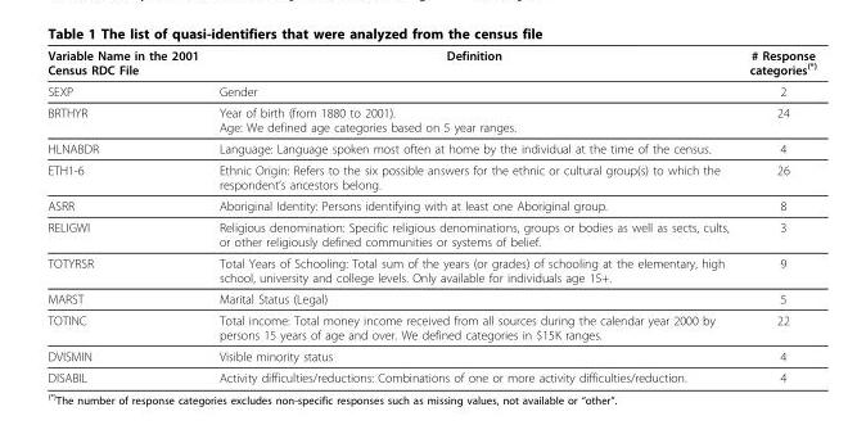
<table><thead><tr><td>Variable Name in the 2001 Census RDC File</td><td>Definition</td><td># Response categories<sup>(*)</sup></td></tr></thead><tbody><tr><td>SEXP</td><td>Gender</td><td>2</td></tr><tr><td>BRTHYR</td><td>Year of birth (from 1880 to 2001). Age: We defined age categories based on 5 year ranges.</td><td>24</td></tr><tr><td>HLNABDR</td><td>Language: Language spoken most often at home by the individual at the time of the census.</td><td>4</td></tr><tr><td>ETH1-6</td><td>Ethnic Origin: Refers to the six possible answers for the ethnic or cultural group(s) to which the respondent’s ancestors belong.</td><td>26</td></tr><tr><td>ASRR</td><td>Aboriginal Identity: Persons identifying with at least one Aboriginal group.</td><td>8</td></tr><tr><td>RELIGWI</td><td>Religious denomination: Specific religious denominations, groups or bodies as well as sects, cults, or other religiously defined communities or systems of belief.</td><td>3</td></tr><tr><td>TOTYRSR</td><td>Total Years of Schooling: Total sum of the years (or grades) of schooling at the elementary, high school, university and college levels. Only available for individuals age 15+.</td><td>9</td></tr><tr><td>MARST</td><td>Marital Status (Legal)</td><td>5</td></tr><tr><td>TOTINC</td><td>Total income: Total money income received from all sources during the calendar year 2000 by persons 15 years of age and over. We defined categories in $15K ranges.</td><td>22</td></tr><tr><td>DVISMIN</td><td>Visible minority status</td><td>4</td></tr><tr><td>DISABIL</td><td>Activity difficulties/reductions: Combinations of one or more activity difficulties/reduction.</td><td>4</td></tr></tbody></table>